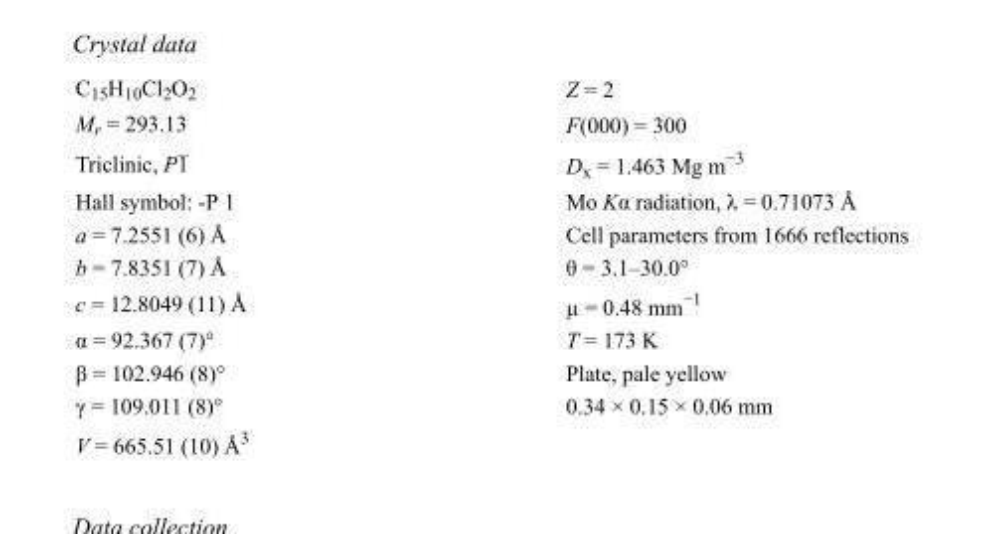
<table><tbody><tr><td>C<sub>15</sub>H<sub>10</sub>Cl<sub>2</sub>O<sub>2</sub></td><td>Z = 2</td></tr><tr><td>M<sub>r</sub> = 293.13</td><td>F(000) = 300</td></tr><tr><td>Triclinic, P1</td><td>D<sub>x</sub> = 1.463 Mg m<sup>−3</sup></td></tr><tr><td>Hall symbol: -P 1</td><td>Mo Kα radiation, λ = 0.71073 Å</td></tr><tr><td>a = 7.2551 (6) Å</td><td>Cell parameters from 1666 reflections</td></tr><tr><td>b = 7.8351 (7) Å</td><td>θ = 3.1–30.0°</td></tr><tr><td>c = 12.8049 (11) Å</td><td>µ = 0.48 mm<sup>−1</sup></td></tr><tr><td>α = 92.367 (7)°</td><td>T = 173 K</td></tr><tr><td>β = 102.946 (8)°</td><td>Plate, pale yellow</td></tr><tr><td>γ = 109.011 (8)°</td><td>0.34 × 0.15 × 0.06 mm</td></tr><tr><td>V = 665.51 (10) Å<sup>3</sup></td><td></td></tr></tbody></table>